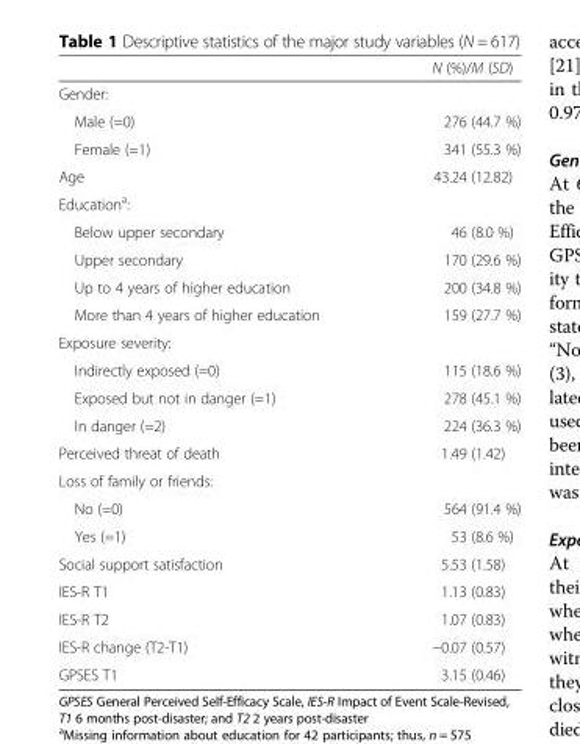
<table><thead><tr><td></td><td>N (%)/M (SD)</td></tr></thead><tbody><tr><td colspan="2">Gender:</td></tr><tr><td>Male (=0)</td><td>276 (44.7 %)</td></tr><tr><td>Female (=1)</td><td>341 (55.3 %)</td></tr><tr><td>Age</td><td>43.24 (12.82)</td></tr><tr><td colspan="2">Education<sup>a</sup>:</td></tr><tr><td>Below upper secondary</td><td>46 (8.0 %)</td></tr><tr><td>Upper secondary</td><td>170 (29.6 %)</td></tr><tr><td>Up to 4 years of higher education</td><td>200 (34.8 %)</td></tr><tr><td>More than 4 years of higher education</td><td>159 (27.7 %)</td></tr><tr><td colspan="2">Exposure severity:</td></tr><tr><td>Indirectly exposed (=0)</td><td>115 (18.6 %)</td></tr><tr><td>Exposed but not in danger (=1)</td><td>278 (45.1 %)</td></tr><tr><td>In danger (=2)</td><td>224 (36.3 %)</td></tr><tr><td>Perceived threat of death</td><td>1.49 (1.42)</td></tr><tr><td colspan="2">Loss of family or friends:</td></tr><tr><td>No (=0)</td><td>564 (91.4 %)</td></tr><tr><td>Yes (=1)</td><td>53 (8.6 %)</td></tr><tr><td>Social support satisfaction</td><td>5.53 (1.58)</td></tr><tr><td>IES-R T1</td><td>1.13 (0.83)</td></tr><tr><td>IES-R T2</td><td>1.07 (0.83)</td></tr><tr><td>IES-R change (T2-T1)</td><td>−0.07 (0.57)</td></tr><tr><td>GPSES T1</td><td>3.15 (0.46)</td></tr></tbody></table>